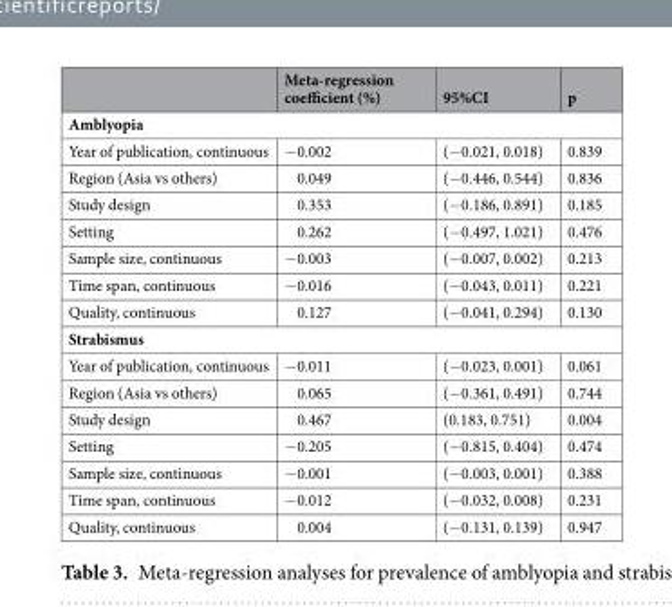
<table><thead><tr><td></td><td>Meta-regression coefficient (%)</td><td>95%CI</td><td>p</td></tr></thead><tbody><tr><td colspan="4">Amblyopia</td></tr><tr><td>Year of publication, continuous</td><td>−0.002</td><td>(−0.021, 0.018)</td><td>0.839</td></tr><tr><td>Region (Asia vs others)</td><td>0.049</td><td>(−0.446, 0.544)</td><td>0.836</td></tr><tr><td>Study design</td><td>0.353</td><td>(−0.186, 0.891)</td><td>0.185</td></tr><tr><td>Setting</td><td>0.262</td><td>(−0.497, 1.021)</td><td>0.476</td></tr><tr><td>Sample size, continuous</td><td>−0.003</td><td>(−0.007, 0.002)</td><td>0.213</td></tr><tr><td>Time span, continuous</td><td>−0.016</td><td>(−0.043, 0.011)</td><td>0.221</td></tr><tr><td>Quality, continuous</td><td>0.127</td><td>(−0.041, 0.294)</td><td>0.130</td></tr><tr><td colspan="4">Strabismus</td></tr><tr><td>Year of publication, continuous</td><td>−0.011</td><td>(−0.023, 0.001)</td><td>0.061</td></tr><tr><td>Region (Asia vs others)</td><td>0.065</td><td>(−0.361, 0.491)</td><td>0.744</td></tr><tr><td>Study design</td><td>0.467</td><td>(0.183, 0.751)</td><td>0.004</td></tr><tr><td>Setting</td><td>−0.205</td><td>(−0.815, 0.404)</td><td>0.474</td></tr><tr><td>Sample size, continuous</td><td>−0.001</td><td>(−0.003, 0.001)</td><td>0.388</td></tr><tr><td>Time span, continuous</td><td>−0.012</td><td>(−0.032, 0.008)</td><td>0.231</td></tr><tr><td>Quality, continuous</td><td>0.004</td><td>(−0.131, 0.139)</td><td>0.947</td></tr></tbody></table>